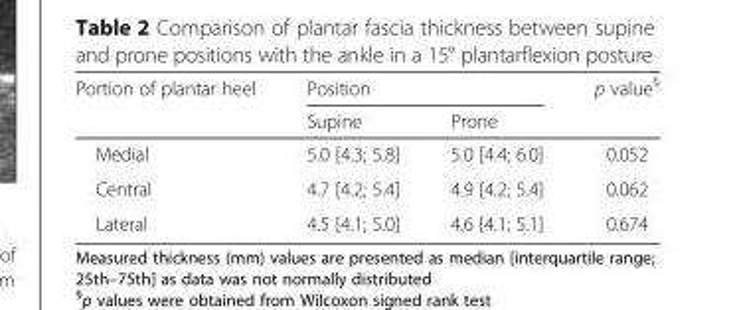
<table><thead><tr><td rowspan="2">Portion of plantar heel</td><td colspan="2">Position</td><td rowspan="2">p value<sup>§</sup></td></tr><tr><td>Supine</td><td>Prone</td></tr></thead><tbody><tr><td>Medial</td><td>5.0 [4.3; 5.8]</td><td>5.0 [4.4; 6.0]</td><td>0.052</td></tr><tr><td>Central</td><td>4.7 [4.2; 5.4]</td><td>4.9 [4.2; 5.4]</td><td>0.062</td></tr><tr><td>Lateral</td><td>4.5 [4.1; 5.0]</td><td>4.6 [4.1; 5.1]</td><td>0.674</td></tr></tbody></table>